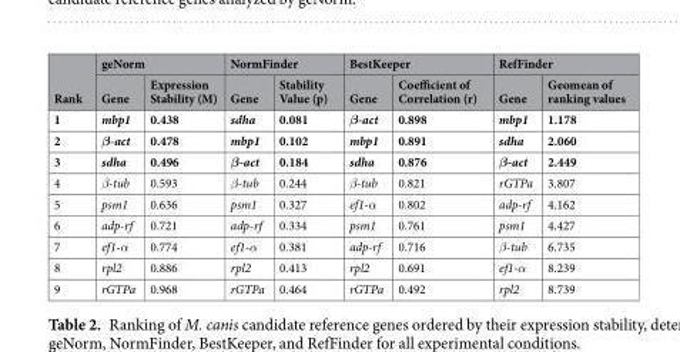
<table><thead><tr><td rowspan="2">Rank</td><td colspan="2">geNorm</td><td colspan="2">NormFinder</td><td colspan="2">BestKeeper</td><td colspan="2">RefFinder</td></tr><tr><td>Gene</td><td>Expression Stability (M)</td><td>Gene</td><td>Stability Value (p)</td><td>Gene</td><td>Coefficient of Correlation (r)</td><td>Gene</td><td>Geomean of ranking values</td></tr></thead><tbody><tr><td>1</td><td>mbp1</td><td>0.438</td><td>sdha</td><td>0.081</td><td>β-act</td><td>0.898</td><td>mbp1</td><td>1.178</td></tr><tr><td>2</td><td>β-act</td><td>0.478</td><td>mbp1</td><td>0.102</td><td>mbp1</td><td>0.891</td><td>sdha</td><td>2.060</td></tr><tr><td>3</td><td>sdha</td><td>0.496</td><td>β-act</td><td>0.184</td><td>sdha</td><td>0.876</td><td>β-act</td><td>2.449</td></tr><tr><td>4</td><td>β-tub</td><td>0.593</td><td>β-tub</td><td>0.244</td><td>β-tub</td><td>0.821</td><td>rGTPa</td><td>3.807</td></tr><tr><td>5</td><td>psm1</td><td>0.636</td><td>psm1</td><td>0.327</td><td>ef1-α</td><td>0.802</td><td>adp-rf</td><td>4.162</td></tr><tr><td>6</td><td>adp-rf</td><td>0.721</td><td>adp-rf</td><td>0.334</td><td>psm1</td><td>0.761</td><td>psm1</td><td>4.427</td></tr><tr><td>7</td><td>ef1-α</td><td>0.774</td><td>ef1-α</td><td>0.381</td><td>adp-rf</td><td>0.716</td><td>β-tub</td><td>6.735</td></tr><tr><td>8</td><td>rpl2</td><td>0.886</td><td>rpl2</td><td>0.413</td><td>rpl2</td><td>0.691</td><td>ef1-α</td><td>8.239</td></tr><tr><td>9</td><td>rGTPa</td><td>0.968</td><td>rGTPa</td><td>0.464</td><td>rGTPa</td><td>0.492</td><td>rpl2</td><td>8.739</td></tr></tbody></table>